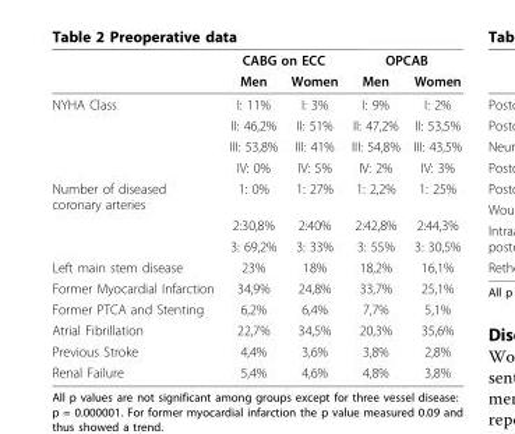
<table><thead><tr><td rowspan="2"></td><td colspan="2">CABG on ECC</td><td colspan="2">OPCAB</td></tr><tr><td>Men</td><td>Women</td><td>Men</td><td>Women</td></tr></thead><tbody><tr><td rowspan="4">NYHA Class</td><td>I: 11%</td><td>I: 3%</td><td>I: 9%</td><td>I: 2%</td></tr><tr><td>II: 46,2%</td><td>II: 51%</td><td>II: 47,2%</td><td>II: 53,5%</td></tr><tr><td>III: 53,8%</td><td>III: 41%</td><td>III: 54,8%</td><td>III: 43,5%</td></tr><tr><td>IV: 0%</td><td>IV: 5%</td><td>IV: 2%</td><td>IV: 3%</td></tr><tr><td rowspan="3">Number of diseased coronary arteries</td><td>1: 0%</td><td>1: 27%</td><td>1: 2,2%</td><td>1: 25%</td></tr><tr><td>2:30,8%</td><td>2:40%</td><td>2:42,8%</td><td>2:44,3%</td></tr><tr><td>3: 69,2%</td><td>3: 33%</td><td>3: 55%</td><td>3: 30,5%</td></tr><tr><td>Left main stem disease</td><td>23%</td><td>18%</td><td>18,2%</td><td>16,1%</td></tr><tr><td>Former Myocardial Infarction</td><td>34,9%</td><td>24,8%</td><td>33,7%</td><td>25,1%</td></tr><tr><td>Former PTCA and Stenting</td><td>6,2%</td><td>6,4%</td><td>7,7%</td><td>5,1%</td></tr><tr><td>Atrial Fibrillation</td><td>22,7%</td><td>34,5%</td><td>20,3%</td><td>35,6%</td></tr><tr><td>Previous Stroke</td><td>4,4%</td><td>3,6%</td><td>3,8%</td><td>2,8%</td></tr><tr><td>Renal Failure</td><td>5,4%</td><td>4,6%</td><td>4,8%</td><td>3,8%</td></tr></tbody></table>